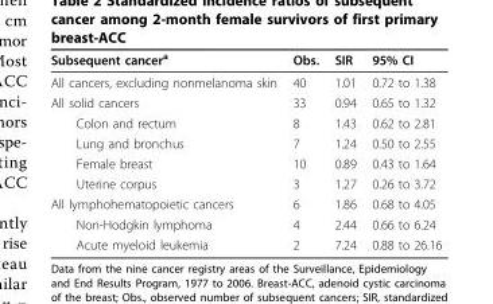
<table><thead><tr><td>Subsequent cancer<sup>a</sup></td><td>Obs.</td><td>SIR</td><td>95% CI</td></tr></thead><tbody><tr><td>All cancers, excluding nonmelanoma skin</td><td>40</td><td>1.01</td><td>0.72 to 1.38</td></tr><tr><td>All solid cancers</td><td>33</td><td>0.94</td><td>0.65 to 1.32</td></tr><tr><td>Colon and rectum</td><td>8</td><td>1.43</td><td>0.62 to 2.81</td></tr><tr><td>Lung and bronchus</td><td>7</td><td>1.24</td><td>0.50 to 2.55</td></tr><tr><td>Female breast</td><td>10</td><td>0.89</td><td>0.43 to 1.64</td></tr><tr><td>Uterine corpus</td><td>3</td><td>1.27</td><td>0.26 to 3.72</td></tr><tr><td>All lymphohematopoietic cancers</td><td>6</td><td>1.86</td><td>0.68 to 4.05</td></tr><tr><td>Non-Hodgkin lymphoma</td><td>4</td><td>2.44</td><td>0.66 to 6.24</td></tr><tr><td>Acute myeloid leukemia</td><td>2</td><td>7.24</td><td>0.88 to 26.16</td></tr></tbody></table>